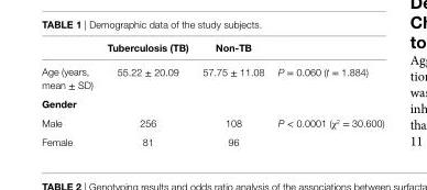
<table><thead><tr><td></td><td>Tuberculosis (TB)</td><td>non-TB</td><td></td></tr></thead><tbody><tr><td>Age (years, mean ± SD)</td><td>55.22 ± 20.09</td><td>57.75 ± 11.08</td><td>P = 0.060 (t = 1.884)</td></tr><tr><td colspan="4">gender</td></tr><tr><td>Male</td><td>256</td><td>108</td><td>P &lt; 0.0001 (χ<sup>2</sup> = 30.600)</td></tr><tr><td>Female</td><td>81</td><td>96</td><td></td></tr></tbody></table>